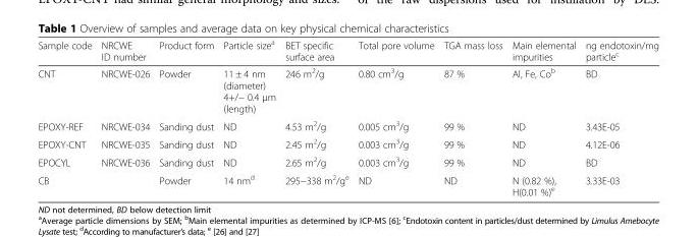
<table><thead><tr><td>Sample code</td><td>NRCWE ID number</td><td>Product form</td><td>Particle size<sup>a</sup></td><td>BET specific surface area</td><td>Total pore volume</td><td>TGA mass loss</td><td>Main elemental impurities</td><td>ng endotoxin/mg particle<sup>c</sup></td></tr></thead><tbody><tr><td>CNT</td><td>NRCWE-026</td><td>Powder</td><td>11 ± 4 nm (diameter) 4+/− 0.4 μm (length)</td><td>246 m<sup>2</sup>/g</td><td>0.80 cm<sup>3</sup>/g</td><td>87 %</td><td>Al, Fe, Co<sup>b</sup></td><td>BD</td></tr><tr><td>EPOXY-REF</td><td>NRCWE-034</td><td>Sanding dust</td><td>ND</td><td>4.53 m<sup>2</sup>/g</td><td>0.005 cm<sup>3</sup>/g</td><td>99 %</td><td>ND</td><td>3.43E-05</td></tr><tr><td>EPOXY-CNT</td><td>NRCWE-035</td><td>Sanding dust</td><td>ND</td><td>2.45 m<sup>2</sup>/g</td><td>0.003 cm<sup>3</sup>/g</td><td>99 %</td><td>ND</td><td>4.12E-06</td></tr><tr><td>EPOCYL</td><td>NRCWE-036</td><td>Sanding dust</td><td>ND</td><td>2.65 m<sup>2</sup>/g</td><td>0.003 cm<sup>3</sup>/g</td><td>99 %</td><td>ND</td><td>BD</td></tr><tr><td>CB</td><td></td><td>Powder</td><td>14 nm<sup>d</sup></td><td>295−338 m<sup>2</sup>/g<sup>e</sup></td><td>ND</td><td>ND</td><td>N (0.82 %), H(0.01 %)<sup>e</sup></td><td>3.33E-03</td></tr></tbody></table>